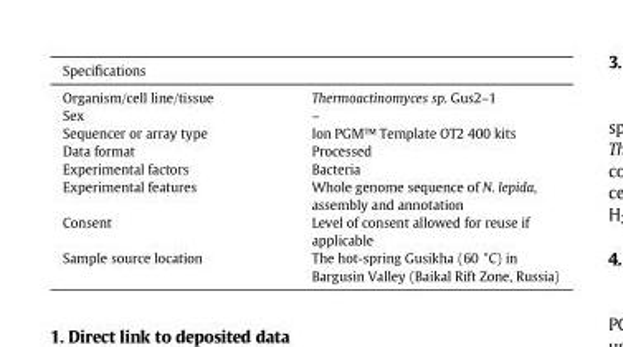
<table><thead><tr><td colspan="2">Specifications</td></tr><tr><td>Organism/cell line/tissue</td><td>Thermoactinomyces sp. Gus2–1</td></tr></thead><tbody><tr><td>Sex</td><td>–</td></tr><tr><td>Sequencer or array type</td><td>Ion PGM™ Template OT2 400 kits</td></tr><tr><td>Data format</td><td>Processed</td></tr><tr><td>Experimental factors</td><td>Bacteria</td></tr><tr><td>Experimental features</td><td>Whole genome sequence of N. lepida, assembly and annotation</td></tr><tr><td>Consent</td><td>Level of consent allowed for reuse if applicable</td></tr><tr><td>Sample source location</td><td>The hot-spring Gusikha (60 °C) in Bargusin Valley (Baikal Rift Zone, Russia)</td></tr></tbody></table>